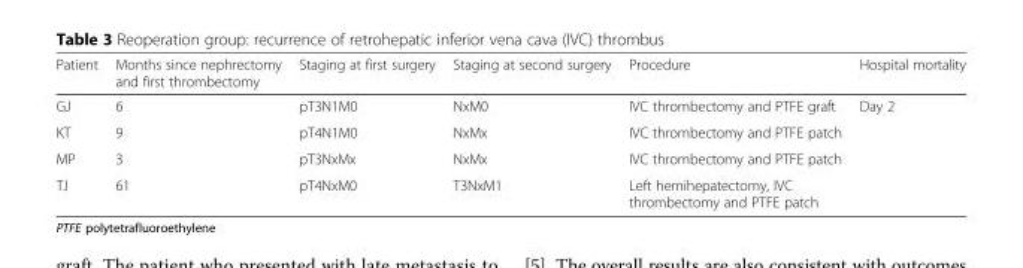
<table><thead><tr><td>Patient</td><td>Months since nephrectomy and first thrombectomy</td><td>Staging at first surgery</td><td>Staging at second surgery</td><td>Procedure</td><td>Hospital mortality</td></tr></thead><tbody><tr><td>GJ</td><td>6</td><td>pT3N1M0</td><td>NxM0</td><td>IVC thrombectomy and PTFE graft</td><td>Day 2</td></tr><tr><td>KT</td><td>9</td><td>pT4N1M0</td><td>NxMx</td><td>IVC thrombectomy and PTFE patch</td><td></td></tr><tr><td>MP</td><td>3</td><td>pT3NxMx</td><td>NxMx</td><td>IVC thrombectomy and PTFE patch</td><td></td></tr><tr><td>TJ</td><td>61</td><td>pT4NxM0</td><td>T3NxM1</td><td>Left hemihepatectomy, IVC thrombectomy and PTFE patch</td><td></td></tr></tbody></table>